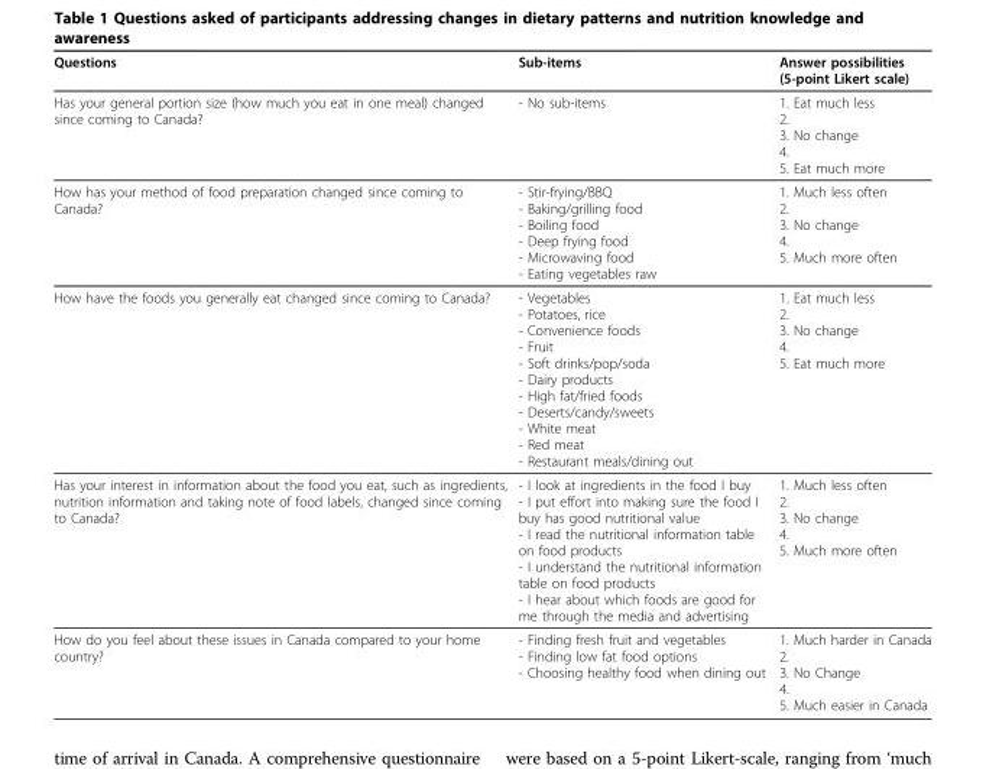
<table><thead><tr><td>Questions</td><td>Sub-items</td><td>Answer possibilities (5-point Likert scale)</td></tr></thead><tbody><tr><td>Has your general portion size (how much you eat in one meal) changed since coming to Canada?</td><td>- No sub-items</td><td>1. Eat much less 2. 3. No change 4. 5. Eat much more</td></tr><tr><td>How has your method of food preparation changed since coming to Canada?</td><td>- Stir-frying/BBQ - Baking/grilling food - Boiling food - Deep frying food - Microwaving food - Eating vegetables raw</td><td>1. Much less often 2. 3. No change 4. 5. Much more often</td></tr><tr><td>How have the foods you generally eat changed since coming to Canada?</td><td>- Vegetables - Potatoes, rice - Convenience foods - Fruit - Soft drinks/pop/soda - Dairy products - High fat/fried foods - Deserts/candy/sweets - White meat - Red meat - Restaurant meals/dining out</td><td>1. Eat much less 2. 3. No change 4. 5. Eat much more</td></tr><tr><td>Has your interest in information about the food you eat, such as ingredients, nutrition information and taking note of food labels, changed since coming to Canada?</td><td>- I look at ingredients in the food I buy - I put effort into making sure the food I buy has good nutritional value - I read the nutritional information table on food products - I understand the nutritional information table on food products - I hear about which foods are good for me through the media and advertising</td><td>1. Much less often 2. 3. No change 4. 5. Much more often</td></tr><tr><td>How do you feel about these issues in Canada compared to your home country?</td><td>- Finding fresh fruit and vegetables - Finding low fat food options - Choosing healthy food when dining out</td><td>1. Much harder in Canada 2. 3. No Change 4. 5. Much easier in Canada</td></tr></tbody></table>